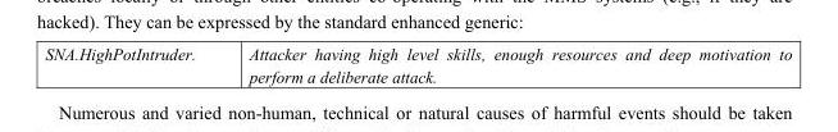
<table><tbody><tr><td>SNA.HighPotIntruder.</td><td>Attacker having high level skills, enough resources and deep motivation to perform a deliberate attack.</td></tr></tbody></table>